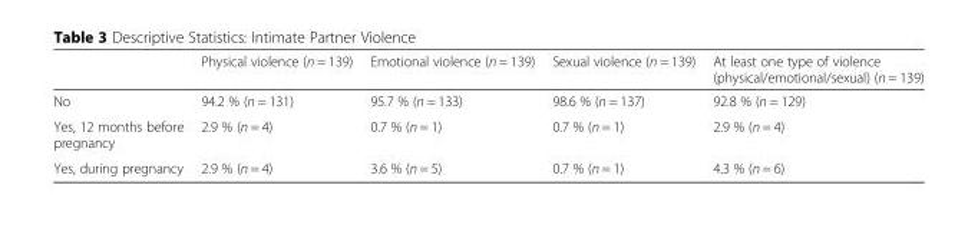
<table><thead><tr><td></td><td>Physical violence (n = 139)</td><td>Emotional violence (n = 139)</td><td>Sexual violence (n = 139)</td><td>At least one type of violence (physical/emotional/sexual) (n = 139)</td></tr></thead><tbody><tr><td>No</td><td>94.2 % (n = 131)</td><td>95.7 % (n = 133)</td><td>98.6 % (n = 137)</td><td>92.8 % (n = 129)</td></tr><tr><td>Yes, 12 months before pregnancy</td><td>2.9 % (n = 4)</td><td>0.7 % (n = 1)</td><td>0.7 % (n = 1)</td><td>2.9 % (n = 4)</td></tr><tr><td>Yes, during pregnancy</td><td>2.9 % (n = 4)</td><td>3.6 % (n = 5)</td><td>0.7 % (n = 1)</td><td>4.3 % (n = 6)</td></tr></tbody></table>